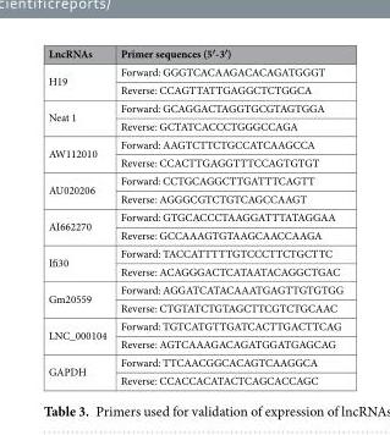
<table><thead><tr><td>LncRNAs</td><td>Primer sequences (5′-3′)</td></tr></thead><tbody><tr><td rowspan="2">H19</td><td>Forward: GGGTCACAAGACACAGATGGGT</td></tr><tr><td>Reverse: CCAGTTATTGAGGCTCTGGCA</td></tr><tr><td rowspan="2">Neat 1</td><td>Forward: GCAGGACTAGGTGCGTAGTGGA</td></tr><tr><td>Reverse: GCTATCACCCTGGGCCAGA</td></tr><tr><td rowspan="2">AW112010</td><td>Forward: AAGTCTTCTGCCATCAAGCCA</td></tr><tr><td>Reverse: CCACTTGAGGTTTCCAGTGTGT</td></tr><tr><td rowspan="2">AU020206</td><td>Forward: CCTGCAGGCTTGATTTCAGTT</td></tr><tr><td>Reverse: AGGGCGTCTGTCAGCCAAGT</td></tr><tr><td rowspan="2">AI662270</td><td>Forward: GTGCACCCTAAGGATTTATAGGAA</td></tr><tr><td>Reverse: GCCAAAGTGTAAGCAACCAAGA</td></tr><tr><td rowspan="2">Ifi30</td><td>Forward: TACCATTTTTGTCCCTTCTGCTTC</td></tr><tr><td>Reverse: ACAGGGACTCATAATACAGGCTGAC</td></tr><tr><td rowspan="2">Gm20559</td><td>Forward: AGGATCATACAAATGAGTTGTGTGG</td></tr><tr><td>Reverse: CTGTATCTGTAGCTTCGTCTGCAAC</td></tr><tr><td rowspan="2">LNC_000104</td><td>Forward: TGTCATGTTGATCACTTGACTTCAG</td></tr><tr><td>Reverse: AGTCAAAGACAGATGGATGAGCAG</td></tr><tr><td rowspan="2">GAPDH</td><td>Forward: TTCAACGGCACAGTCAAGGCA</td></tr><tr><td>Reverse: CCACCACATACTCAGCACCAGC</td></tr></tbody></table>